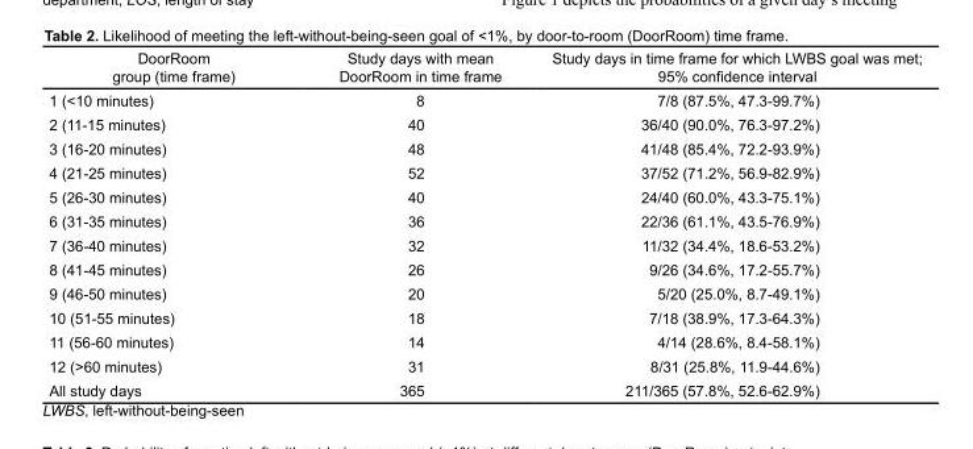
<table><thead><tr><td>DoorRoom group (time frame)</td><td>Study days with mean DoorRoom in time frame</td><td>Study days in time frame for which LWBS goal was met; 95% confidence interval</td></tr></thead><tbody><tr><td>1 (&lt;10 minutes)</td><td>8</td><td>7/8 (87.5%, 47.3-99.7%)</td></tr><tr><td>2 (11-15 minutes)</td><td>40</td><td>36/40 (90.0%, 76.3-97.2%)</td></tr><tr><td>3 (16-20 minutes)</td><td>48</td><td>41/48 (85.4%, 72.2-93.9%)</td></tr><tr><td>4 (21-25 minutes)</td><td>52</td><td>37/52 (71.2%, 56.9-82.9%)</td></tr><tr><td>5 (26-30 minutes)</td><td>40</td><td>24/40 (60.0%, 43.3-75.1%)</td></tr><tr><td>6 (31-35 minutes)</td><td>36</td><td>22/36 (61.1%, 43.5-76.9%)</td></tr><tr><td>7 (36-40 minutes)</td><td>32</td><td>11/32 (34.4%, 18.6-53.2%)</td></tr><tr><td>8 (41-45 minutes)</td><td>26</td><td>9/26 (34.6%, 17.2-55.7%)</td></tr><tr><td>9 (46-50 minutes)</td><td>20</td><td>5/20 (25.0%, 8.7-49.1%)</td></tr><tr><td>10 (51-55 minutes)</td><td>18</td><td>7/18 (38.9%, 17.3-64.3%)</td></tr><tr><td>11 (56-60 minutes)</td><td>14</td><td>4/14 (28.6%, 8.4-58.1%)</td></tr><tr><td>12 (&gt;60 minutes)</td><td>31</td><td>8/31 (25.8%, 11.9-44.6%)</td></tr><tr><td>All study days</td><td>365</td><td>211/365 (57.8%, 52.6-62.9%)</td></tr></tbody></table>